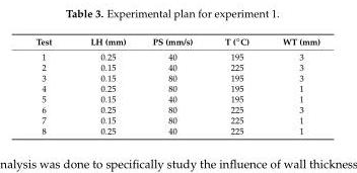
<table><thead><tr><td>Test</td><td>LH (mm)</td><td>PS (mm/s)</td><td>T (◦C)</td><td>WT (mm)</td></tr></thead><tbody><tr><td>1</td><td>0.25</td><td>40</td><td>195</td><td>3</td></tr><tr><td>2</td><td>0.15</td><td>40</td><td>225</td><td>3</td></tr><tr><td>3</td><td>0.15</td><td>80</td><td>195</td><td>3</td></tr><tr><td>4</td><td>0.25</td><td>80</td><td>195</td><td>1</td></tr><tr><td>5</td><td>0.15</td><td>40</td><td>195</td><td>1</td></tr><tr><td>6</td><td>0.25</td><td>80</td><td>225</td><td>3</td></tr><tr><td>7</td><td>0.15</td><td>80</td><td>225</td><td>1</td></tr><tr><td>8</td><td>0.25</td><td>40</td><td>225</td><td>1</td></tr></tbody></table>